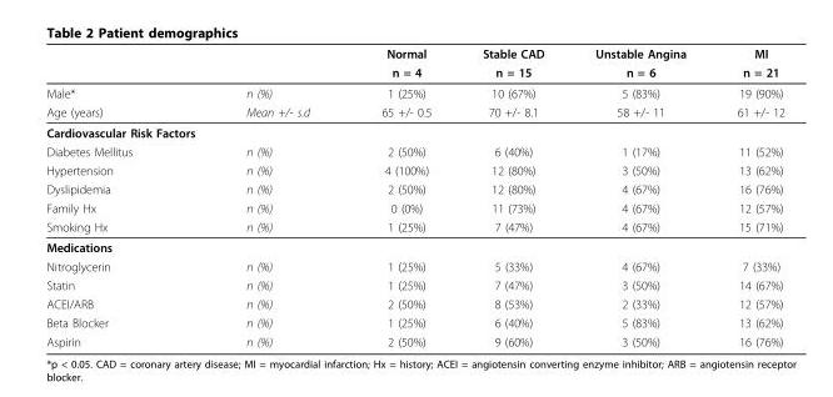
<table><thead><tr><td rowspan="2"></td><td rowspan="2"></td><td rowspan="2">Normal n = 4</td><td rowspan="2">Stable CAD n = 15</td><td rowspan="2">Unstable Angina n = 6</td><td rowspan="2">MI n = 21</td></tr><tr></tr></thead><tbody><tr><td>Male*</td><td>n (%)</td><td>1 (25%)</td><td>10 (67%)</td><td>5 (83%)</td><td>19 (90%)</td></tr><tr><td>Age (years)</td><td>Mean +/- s.d</td><td>65 +/- 0.5</td><td>70 +/- 8.1</td><td>58 +/- 11</td><td>61 +/- 12</td></tr><tr><td colspan="6">Cardiovascular Risk Factors</td></tr><tr><td>Diabetes Mellitus</td><td>n (%)</td><td>2 (50%)</td><td>6 (40%)</td><td>1 (17%)</td><td>11 (52%)</td></tr><tr><td>Hypertension</td><td>n (%)</td><td>4 (100%)</td><td>12 (80%)</td><td>3 (50%)</td><td>13 (62%)</td></tr><tr><td>Dyslipidemia</td><td>n (%)</td><td>2 (50%)</td><td>12 (80%)</td><td>4 (67%)</td><td>16 (76%)</td></tr><tr><td>Family Hx</td><td>n (%)</td><td>0 (0%)</td><td>11 (73%)</td><td>4 (67%)</td><td>12 (57%)</td></tr><tr><td>Smoking Hx</td><td>n (%)</td><td>1 (25%)</td><td>7 (47%)</td><td>4 (67%)</td><td>15 (71%)</td></tr><tr><td colspan="6">Medications</td></tr><tr><td>Nitroglycerin</td><td>n (%)</td><td>1 (25%)</td><td>5 (33%)</td><td>4 (67%)</td><td>7 (33%)</td></tr><tr><td>Statin</td><td>n (%)</td><td>1 (25%)</td><td>7 (47%)</td><td>3 (50%)</td><td>14 (67%)</td></tr><tr><td>ACEI/ARB</td><td>n (%)</td><td>2 (50%)</td><td>8 (53%)</td><td>2 (33%)</td><td>12 (57%)</td></tr><tr><td>Beta Blocker</td><td>n (%)</td><td>1 (25%)</td><td>6 (40%)</td><td>5 (83%)</td><td>13 (62%)</td></tr><tr><td>Aspirin</td><td>n (%)</td><td>2 (50%)</td><td>9 (60%)</td><td>3 (50%)</td><td>16 (76%)</td></tr></tbody></table>